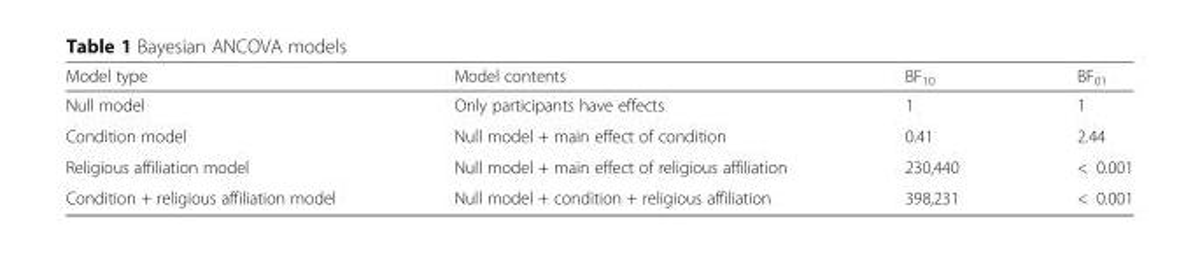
<table><thead><tr><td>Model type</td><td>Model contents</td><td>BF<sub>10</sub></td><td>BF<sub>01</sub></td></tr></thead><tbody><tr><td>Null model</td><td>Only participants have effects</td><td>1</td><td>1</td></tr><tr><td>Condition model</td><td>Null model + main effect of condition</td><td>0.41</td><td>2.44</td></tr><tr><td>Religious affiliation model</td><td>Null model + main effect of religious affiliation</td><td>230,440</td><td>&lt; 0.001</td></tr><tr><td>Condition + religious affiliation model</td><td>Null model + condition + religious affiliation</td><td>398,231</td><td>&lt; 0.001</td></tr></tbody></table>